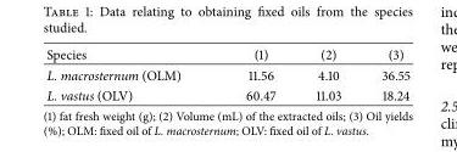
<table><thead><tr><td>Species</td><td>(1)</td><td>(2)</td><td>(3)</td></tr></thead><tbody><tr><td>L. macrosternum (OLM)</td><td>11.56</td><td>4.10</td><td>36.55</td></tr><tr><td>L. vastus (OLV)</td><td>60.47</td><td>11.03</td><td>18.24</td></tr></tbody></table>